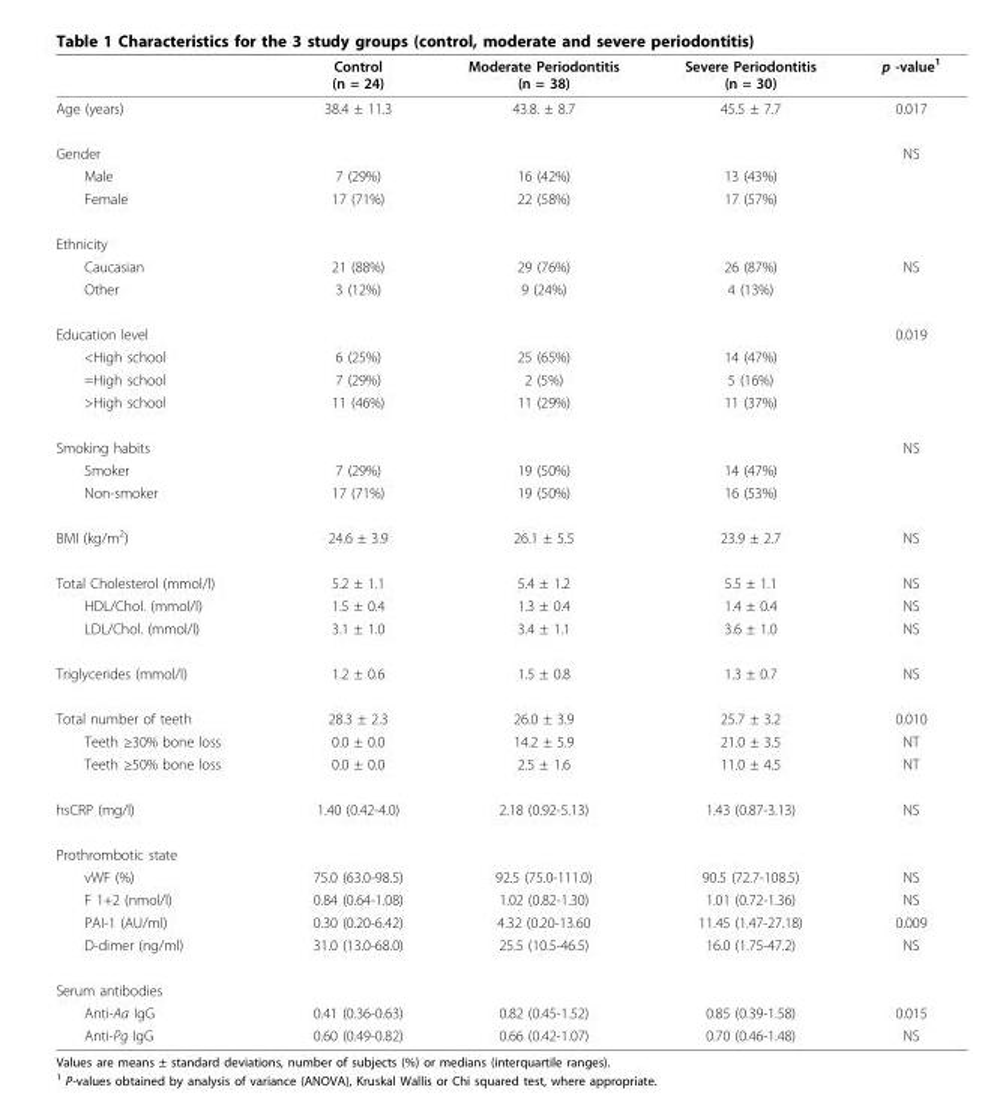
<table><thead><tr><td></td><td>Control (n = 24)</td><td>Moderate Periodontitis (n = 38)</td><td>Severe Periodontitis (n = 30)</td><td>p -value<sup>1</sup></td></tr></thead><tbody><tr><td>Age (years)</td><td>38.4 ± 11.3</td><td>43.8. ± 8.7</td><td>45.5 ± 7.7</td><td>0.017</td></tr><tr><td>Gender</td><td></td><td></td><td></td><td>NS</td></tr><tr><td>Male</td><td>7 (29%)</td><td>16 (42%)</td><td>13 (43%)</td><td></td></tr><tr><td>Female</td><td>17 (71%)</td><td>22 (58%)</td><td>17 (57%)</td><td></td></tr><tr><td colspan="5">Ethnicity</td></tr><tr><td>Caucasian</td><td>21 (88%)</td><td>29 (76%)</td><td>26 (87%)</td><td>NS</td></tr><tr><td>Other</td><td>3 (12%)</td><td>9 (24%)</td><td>4 (13%)</td><td></td></tr><tr><td>Education level</td><td></td><td></td><td></td><td>0.019</td></tr><tr><td>&lt;High school</td><td>6 (25%)</td><td>25 (65%)</td><td>14 (47%)</td><td></td></tr><tr><td>=High school</td><td>7 (29%)</td><td>2 (5%)</td><td>5 (16%)</td><td></td></tr><tr><td>&gt;High school</td><td>11 (46%)</td><td>11 (29%)</td><td>11 (37%)</td><td></td></tr><tr><td>Smoking habits</td><td></td><td></td><td></td><td>NS</td></tr><tr><td>Smoker</td><td>7 (29%)</td><td>19 (50%)</td><td>14 (47%)</td><td></td></tr><tr><td>Non-smoker</td><td>17 (71%)</td><td>19 (50%)</td><td>16 (53%)</td><td></td></tr><tr><td>BMI (kg/m<sup>2</sup>)</td><td>24.6 ± 3.9</td><td>26.1 ± 5.5</td><td>23.9 ± 2.7</td><td>NS</td></tr><tr><td>Total Cholesterol (mmol/l)</td><td>5.2 ± 1.1</td><td>5.4 ± 1.2</td><td>5.5 ± 1.1</td><td>NS</td></tr><tr><td>HDL/Chol. (mmol/l)</td><td>1.5 ± 0.4</td><td>1.3 ± 0.4</td><td>1.4 ± 0.4</td><td>NS</td></tr><tr><td>LDL/Chol. (mmol/l)</td><td>3.1 ± 1.0</td><td>3.4 ± 1.1</td><td>3.6 ± 1.0</td><td>NS</td></tr><tr><td>Triglycerides (mmol/l)</td><td>1.2 ± 0.6</td><td>1.5 ± 0.8</td><td>1.3 ± 0.7</td><td>NS</td></tr><tr><td>Total number of teeth</td><td>28.3 ± 2.3</td><td>26.0 ± 3.9</td><td>25.7 ± 3.2</td><td>0.010</td></tr><tr><td>Teeth ≥30% bone loss</td><td>0.0 ± 0.0</td><td>14.2 ± 5.9</td><td>21.0 ± 3.5</td><td>NT</td></tr><tr><td>Teeth ≥50% bone loss</td><td>0.0 ± 0.0</td><td>2.5 ± 1.6</td><td>11.0 ± 4.5</td><td>NT</td></tr><tr><td>hsCRP (mg/l)</td><td>1.40 (0.42-4.0)</td><td>2.18 (0.92-5.13)</td><td>1.43 (0.87-3.13)</td><td>NS</td></tr><tr><td colspan="5">Prothrombotic state</td></tr><tr><td>vWF (%)</td><td>75.0 (63.0-98.5)</td><td>92.5 (75.0-111.0)</td><td>90.5 (72.7-108.5)</td><td>NS</td></tr><tr><td>F 1+2 (nmol/l)</td><td>0.84 (0.64-1.08)</td><td>1.02 (0.82-1.30)</td><td>1.01 (0.72-1.36)</td><td>NS</td></tr><tr><td>PAI-1 (AU/ml)</td><td>0.30 (0.20-6.42)</td><td>4.32 (0.20-13.60</td><td>11.45 (1.47-27.18)</td><td>0.009</td></tr><tr><td>D-dimer (ng/ml)</td><td>31.0 (13.0-68.0)</td><td>25.5 (10.5-46.5)</td><td>16.0 (1.75-47.2)</td><td>NS</td></tr><tr><td colspan="5">Serum antibodies</td></tr><tr><td>Anti-Aa IgG</td><td>0.41 (0.36-0.63)</td><td>0.82 (0.45-1.52)</td><td>0.85 (0.39-1.58)</td><td>0.015</td></tr><tr><td>Anti-Pg IgG</td><td>0.60 (0.49-0.82)</td><td>0.66 (0.42-1.07)</td><td>0.70 (0.46-1.48)</td><td>NS</td></tr></tbody></table>